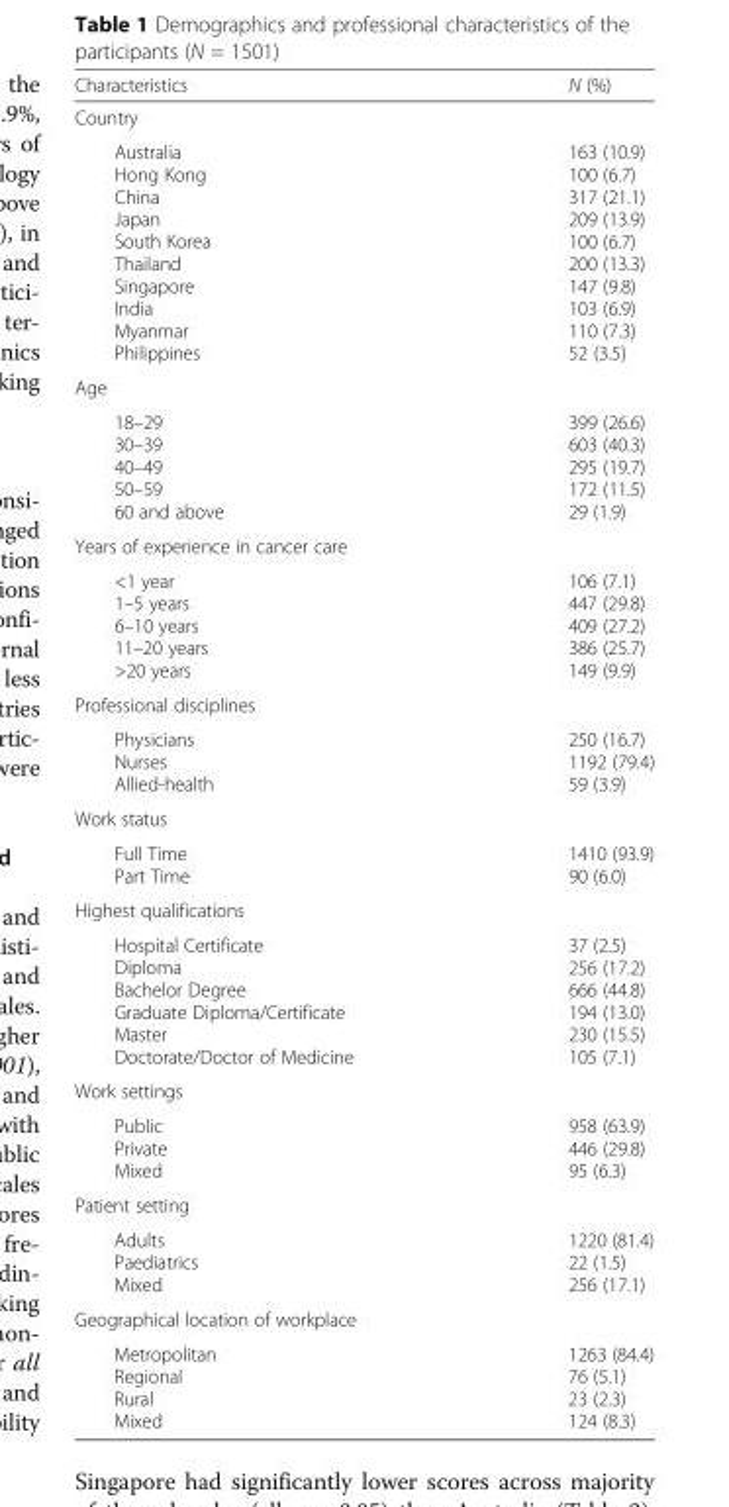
<table><thead><tr><td>Characteristics</td><td>N (%)</td></tr></thead><tbody><tr><td colspan="2">Country</td></tr><tr><td>Australia Hong Kong China Japan South Korea Thailand Singapore India Myanmar Philippines</td><td>163 (10.9) 100 (6.7) 317 (21.1) 209 (13.9) 100 (6.7) 200 (13.3) 147 (9.8) 103 (6.9) 110 (7.3) 52 (3.5)</td></tr><tr><td colspan="2">Age</td></tr><tr><td>18–29 30–39 40–49 50–59 60 and above</td><td>399 (26.6) 603 (40.3) 295 (19.7) 172 (11.5) 29 (1.9)</td></tr><tr><td colspan="2">Years of experience in cancer care</td></tr><tr><td>&lt;1 year 1–5 years 6–10 years 11–20 years &gt;20 years</td><td>106 (7.1) 447 (29.8) 409 (27.2) 386 (25.7) 149 (9.9)</td></tr><tr><td colspan="2">Professional disciplines</td></tr><tr><td>Physicians Nurses Allied-health</td><td>250 (16.7) 1192 (79.4) 59 (3.9)</td></tr><tr><td colspan="2">Work status</td></tr><tr><td>Full Time Part Time</td><td>1410 (93.9) 90 (6.0)</td></tr><tr><td colspan="2">Highest qualifications</td></tr><tr><td>Hospital Certificate Diploma Bachelor Degree Graduate Diploma/Certificate Master Doctorate/Doctor of Medicine</td><td>37 (2.5) 256 (17.2) 666 (44.8) 194 (13.0) 230 (15.5) 105 (7.1)</td></tr><tr><td colspan="2">Work settings</td></tr><tr><td>Public Private Mixed</td><td>958 (63.9) 446 (29.8) 95 (6.3)</td></tr><tr><td colspan="2">Patient setting</td></tr><tr><td>Adults Paediatrics Mixed</td><td>1220 (81.4) 22 (1.5) 256 (17.1)</td></tr><tr><td colspan="2">Geographical location of workplace</td></tr><tr><td>Metropolitan Regional Rural Mixed</td><td>1263 (84.4) 76 (5.1) 23 (2.3) 124 (8.3)</td></tr></tbody></table>